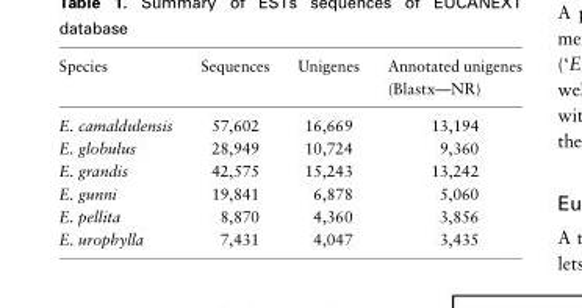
<table><thead><tr><td>Species</td><td>Sequences</td><td>Unigenes</td><td>Annotated unigenes (Blastx—NR)</td></tr></thead><tbody><tr><td>E. camaldulensis</td><td>57,602</td><td>16,669</td><td>13,194</td></tr><tr><td>E. globulus</td><td>28,949</td><td>10,724</td><td>9,360</td></tr><tr><td>E. grandis</td><td>42,575</td><td>15,243</td><td>13,242</td></tr><tr><td>E. gunni</td><td>19,841</td><td>6,878</td><td>5,060</td></tr><tr><td>E. pellita</td><td>8,870</td><td>4,360</td><td>3,856</td></tr><tr><td>E. urophylla</td><td>7,431</td><td>4,047</td><td>3,435</td></tr></tbody></table>